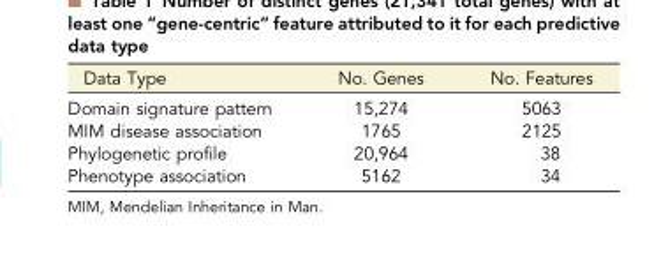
<table><thead><tr><td>Data Type</td><td>No. Genes</td><td>No. Features</td></tr></thead><tbody><tr><td>Domain signature pattern</td><td>15,274</td><td>5063</td></tr><tr><td>MIM disease association</td><td>1765</td><td>2125</td></tr><tr><td>Phylogenetic profile</td><td>20,964</td><td>38</td></tr><tr><td>Phenotype association</td><td>5162</td><td>34</td></tr></tbody></table>